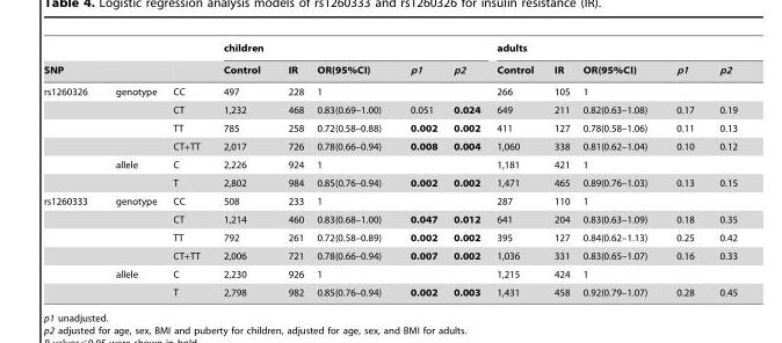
<table><thead><tr><td rowspan="2">SNP</td><td rowspan="2"></td><td rowspan="2"></td><td colspan="5">children</td><td colspan="5">adults</td></tr><tr><td>Control</td><td>IR</td><td>OR(95%CI)</td><td>p1</td><td>p2</td><td>Control</td><td>IR</td><td>OR(95%CI)</td><td>p1</td><td>p2</td></tr></thead><tbody><tr><td rowspan="6">rs1260326</td><td>genotype</td><td>CC</td><td>497</td><td>228</td><td>1</td><td></td><td></td><td>266</td><td>105</td><td>1</td><td></td><td></td></tr><tr><td></td><td>CT</td><td>1,232</td><td>468</td><td>0.83(0.69–1.00)</td><td>0.051</td><td>0.024</td><td>649</td><td>211</td><td>0.82(0.63–1.08)</td><td>0.17</td><td>0.19</td></tr><tr><td></td><td>TT</td><td>785</td><td>258</td><td>0.72(0.58–0.88)</td><td>0.002</td><td>0.002</td><td>411</td><td>127</td><td>0.78(0.58–1.06)</td><td>0.11</td><td>0.13</td></tr><tr><td></td><td>CT+TT</td><td>2,017</td><td>726</td><td>0.78(0.66–0.94)</td><td>0.008</td><td>0.004</td><td>1,060</td><td>338</td><td>0.81(0.62–1.04)</td><td>0.10</td><td>0.12</td></tr><tr><td>allele</td><td>C</td><td>2,226</td><td>924</td><td>1</td><td></td><td></td><td>1,181</td><td>421</td><td>1</td><td></td><td></td></tr><tr><td></td><td>T</td><td>2,802</td><td>984</td><td>0.85(0.76–0.94)</td><td>0.002</td><td>0.002</td><td>1,471</td><td>465</td><td>0.89(0.76–1.03)</td><td>0.13</td><td>0.15</td></tr><tr><td rowspan="6">rs1260333</td><td>genotype</td><td>CC</td><td>508</td><td>233</td><td>1</td><td></td><td></td><td>287</td><td>110</td><td>1</td><td></td><td></td></tr><tr><td></td><td>CT</td><td>1,214</td><td>460</td><td>0.83(0.68–1.00)</td><td>0.047</td><td>0.012</td><td>641</td><td>204</td><td>0.83(0.63–1.09)</td><td>0.18</td><td>0.35</td></tr><tr><td></td><td>TT</td><td>792</td><td>261</td><td>0.72(0.58–0.89)</td><td>0.002</td><td>0.002</td><td>395</td><td>127</td><td>0.84(0.62–1.13)</td><td>0.25</td><td>0.42</td></tr><tr><td></td><td>CT+TT</td><td>2,006</td><td>721</td><td>0.78(0.66–0.94)</td><td>0.007</td><td>0.002</td><td>1,036</td><td>331</td><td>0.83(0.65–1.07)</td><td>0.16</td><td>0.33</td></tr><tr><td>allele</td><td>C</td><td>2,230</td><td>926</td><td>1</td><td></td><td></td><td>1,215</td><td>424</td><td>1</td><td></td><td></td></tr><tr><td></td><td>T</td><td>2,798</td><td>982</td><td>0.85(0.76–0.94)</td><td>0.002</td><td>0.003</td><td>1,431</td><td>458</td><td>0.92(0.79–1.07)</td><td>0.28</td><td>0.45</td></tr></tbody></table>